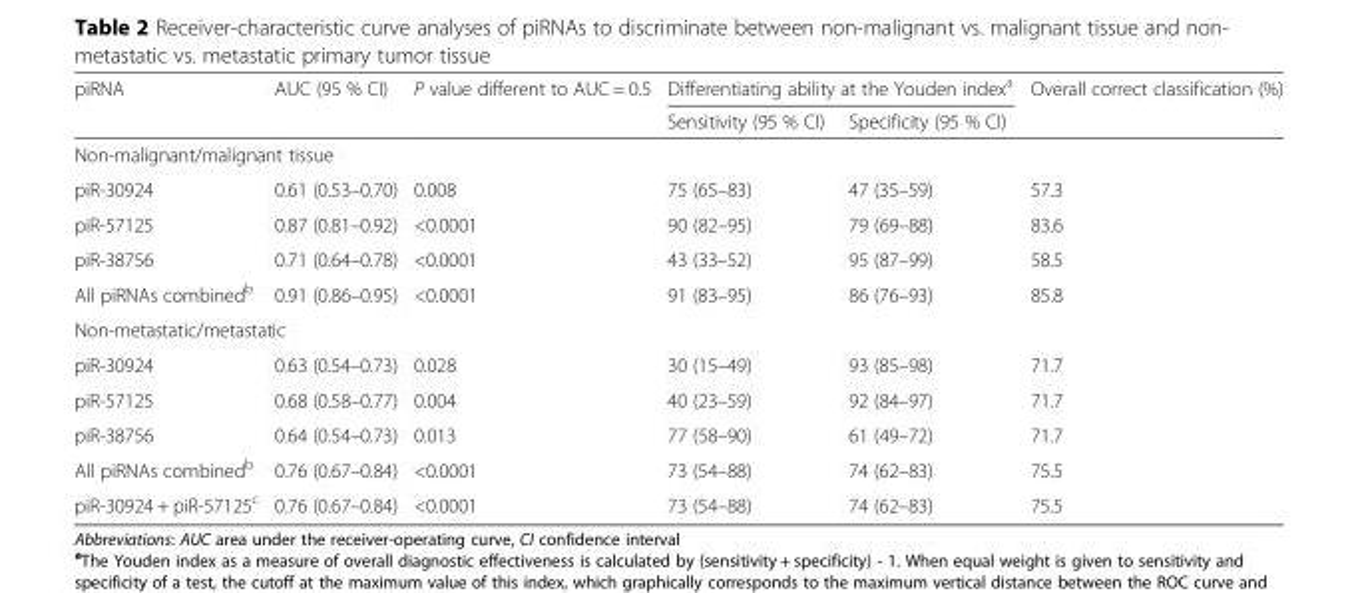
<table><thead><tr><td rowspan="2">piRNA</td><td rowspan="2">AUC (95 % CI)</td><td rowspan="2">P value different to AUC = 0.5</td><td colspan="2">Differentiating ability at the Youden index<sup>a</sup></td><td rowspan="2">Overall correct classification (%)</td></tr><tr><td>Sensitivity (95 % CI)</td><td>Specificity (95 % CI)</td></tr></thead><tbody><tr><td colspan="6">Non-malignant/malignant tissue</td></tr><tr><td>piR-30924</td><td>0.61 (0.53–0.70)</td><td>0.008</td><td>75 (65–83)</td><td>47 (35–59)</td><td>57.3</td></tr><tr><td>piR-57125</td><td>0.87 (0.81–0.92)</td><td>&lt;0.0001</td><td>90 (82–95)</td><td>79 (69–88)</td><td>83.6</td></tr><tr><td>piR-38756</td><td>0.71 (0.64–0.78)</td><td>&lt;0.0001</td><td>43 (33–52)</td><td>95 (87–99)</td><td>58.5</td></tr><tr><td>All piRNAs combined<sup>b</sup></td><td>0.91 (0.86–0.95)</td><td>&lt;0.0001</td><td>91 (83–95)</td><td>86 (76–93)</td><td>85.8</td></tr><tr><td colspan="6">Non-metastatic/metastatic</td></tr><tr><td>piR-30924</td><td>0.63 (0.54–0.73)</td><td>0.028</td><td>30 (15–49)</td><td>93 (85–98)</td><td>71.7</td></tr><tr><td>piR-57125</td><td>0.68 (0.58–0.77)</td><td>0.004</td><td>40 (23–59)</td><td>92 (84–97)</td><td>71.7</td></tr><tr><td>piR-38756</td><td>0.64 (0.54–0.73)</td><td>0.013</td><td>77 (58–90)</td><td>61 (49–72)</td><td>71.7</td></tr><tr><td>All piRNAs combined<sup>b</sup></td><td>0.76 (0.67–0.84)</td><td>&lt;0.0001</td><td>73 (54–88)</td><td>74 (62–83)</td><td>75.5</td></tr><tr><td>piR-30924 + piR-57125<sup>c</sup></td><td>0.76 (0.67–0.84)</td><td>&lt;0.0001</td><td>73 (54–88)</td><td>74 (62–83)</td><td>75.5</td></tr></tbody></table>